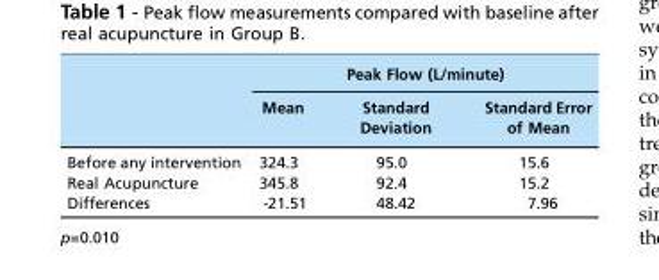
<table><thead><tr><td rowspan="2"></td><td colspan="3">Peak Flow (L/minute)</td></tr><tr><td>Mean</td><td>Standard Deviation</td><td>Standard Error of Mean</td></tr></thead><tbody><tr><td>Before any intervention</td><td>324.3</td><td>95.0</td><td>15.6</td></tr><tr><td>Real Acupuncture</td><td>345.8</td><td>92.4</td><td>15.2</td></tr><tr><td>Differences</td><td>-21.51</td><td>48.42</td><td>7.96</td></tr></tbody></table>